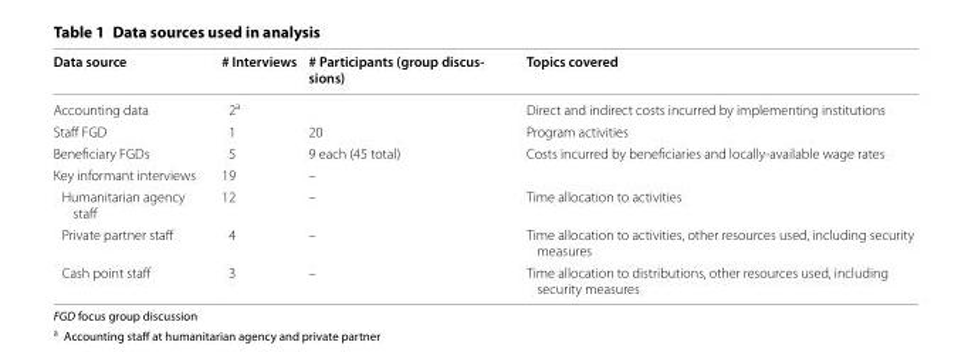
<table><thead><tr><td>Data source</td><td># Interviews</td><td># Participants (group discus‑ sions)</td><td>Topics covered</td></tr></thead><tbody><tr><td>Accounting data</td><td>2<sup>a</sup></td><td></td><td>Direct and indirect costs incurred by implementing institutions</td></tr><tr><td>Staff FGD</td><td>1</td><td>20</td><td>Program activities</td></tr><tr><td>Beneficiary FGDs</td><td>5</td><td>9 each (45 total)</td><td>Costs incurred by beneficiaries and locally‑available wage rates</td></tr><tr><td>Key informant interviews</td><td>19</td><td>–</td><td></td></tr><tr><td>Humanitarian agency staff</td><td>12</td><td>–</td><td>Time allocation to activities</td></tr><tr><td>Private partner staff</td><td>4</td><td>–</td><td>Time allocation to activities, other resources used, including security measures</td></tr><tr><td>Cash point staff</td><td>3</td><td>–</td><td>Time allocation to distributions, other resources used, including security measures</td></tr></tbody></table>